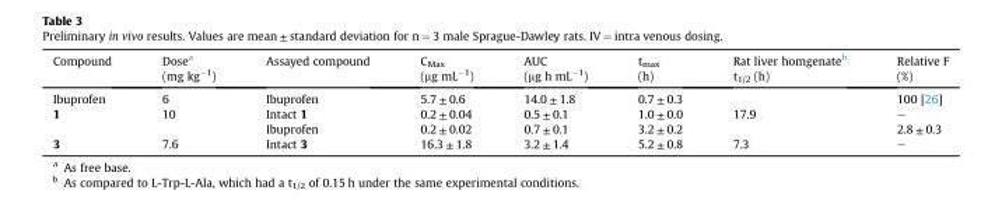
<table><thead><tr><td>Compound</td><td>Dose<sup>a</sup> (mg kg<sup>−1</sup>)</td><td>Assayed compound</td><td>C<sub>Max</sub> (μg mL<sup>−1</sup>)</td><td>AUC (μg h mL<sup>−1</sup>)</td><td>t<sub>max</sub> (h)</td><td>Rat liver homgenate<sup>b</sup> t<sub>1/2</sub> (h)</td><td>Relative F (%)</td></tr></thead><tbody><tr><td>Ibuprofen</td><td>6</td><td>Ibuprofen</td><td>5.7 ± 0.6</td><td>14.0 ± 1.8</td><td>0.7 ± 0.3</td><td></td><td>100 [26]</td></tr><tr><td rowspan="2">1</td><td rowspan="2">10</td><td>Intact 1</td><td>0.2 ± 0.04</td><td>0.5 ± 0.1</td><td>1.0 ± 0.0</td><td>17.9</td><td>–</td></tr><tr><td>Ibuprofen</td><td>0.2 ± 0.02</td><td>0.7 ± 0.1</td><td>3.2 ± 0.2</td><td></td><td>2.8 ± 0.3</td></tr><tr><td>3</td><td>7.6</td><td>Intact 3</td><td>16.3 ± 1.8</td><td>3.2 ± 1.4</td><td>5.2 ± 0.8</td><td>7.3</td><td>–</td></tr></tbody></table>